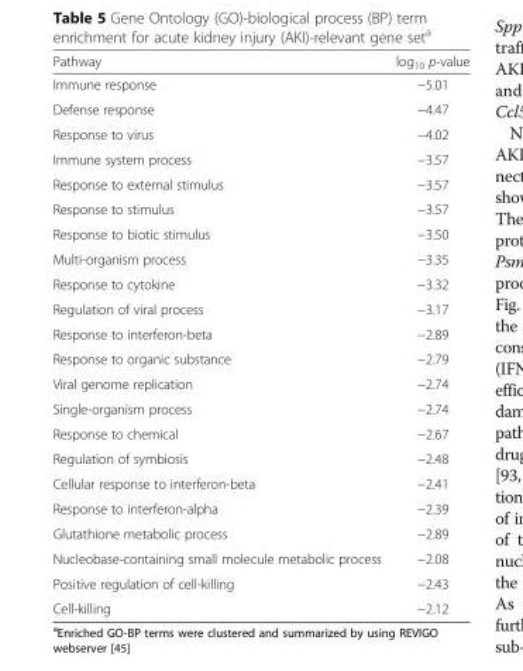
<table><thead><tr><td>Pathway</td><td>log<sub>10</sub> p-value</td></tr></thead><tbody><tr><td>Immune response</td><td>−5.01</td></tr><tr><td>Defense response</td><td>−4.47</td></tr><tr><td>Response to virus</td><td>−4.02</td></tr><tr><td>Immune system process</td><td>−3.57</td></tr><tr><td>Response to external stimulus</td><td>−3.57</td></tr><tr><td>Response to stimulus</td><td>−3.57</td></tr><tr><td>Response to biotic stimulus</td><td>−3.50</td></tr><tr><td>Multi-organism process</td><td>−3.35</td></tr><tr><td>Response to cytokine</td><td>−3.32</td></tr><tr><td>Regulation of viral process</td><td>−3.17</td></tr><tr><td>Response to interferon-beta</td><td>−2.89</td></tr><tr><td>Response to organic substance</td><td>−2.79</td></tr><tr><td>Viral genome replication</td><td>−2.74</td></tr><tr><td>Single-organism process</td><td>−2.74</td></tr><tr><td>Response to chemical</td><td>−2.67</td></tr><tr><td>Regulation of symbiosis</td><td>−2.48</td></tr><tr><td>Cellular response to interferon-beta</td><td>−2.41</td></tr><tr><td>Response to interferon-alpha</td><td>−2.39</td></tr><tr><td>Glutathione metabolic process</td><td>−2.89</td></tr><tr><td>Nucleobase-containing small molecule metabolic process</td><td>−2.08</td></tr><tr><td>Positive regulation of cell-killing</td><td>−2.43</td></tr><tr><td>Cell-killing</td><td>−2.12</td></tr></tbody></table>